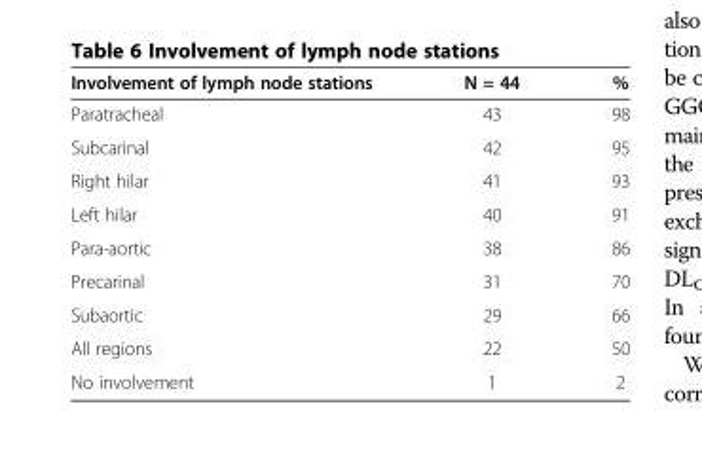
<table><thead><tr><td>Involvement of lymph node stations</td><td>N = 44</td><td>%</td></tr></thead><tbody><tr><td>Paratracheal</td><td>43</td><td>98</td></tr><tr><td>Subcarinal</td><td>42</td><td>95</td></tr><tr><td>Right hilar</td><td>41</td><td>93</td></tr><tr><td>Left hilar</td><td>40</td><td>91</td></tr><tr><td>Para-aortic</td><td>38</td><td>86</td></tr><tr><td>Precarinal</td><td>31</td><td>70</td></tr><tr><td>Subaortic</td><td>29</td><td>66</td></tr><tr><td>All regions</td><td>22</td><td>50</td></tr><tr><td>No involvement</td><td>1</td><td>2</td></tr></tbody></table>